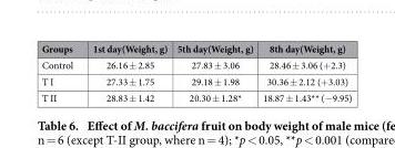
<table><thead><tr><td>Groups</td><td>1st day(Weight, g)</td><td>5th day(Weight, g)</td><td>8th day(Weight, g)</td></tr></thead><tbody><tr><td>Control</td><td>26.16 ± 2.85</td><td>27.83 ± 3.06</td><td>28.46 ± 3.06 (+ 2.3)</td></tr><tr><td>T I</td><td>27.33 ± 1.75</td><td>29.18 ± 1.98</td><td>30.36 ± 2.12 (+ 3.03)</td></tr><tr><td>T II</td><td>28.83 ± 1.42</td><td>20.30 ± 1.28*</td><td>18.87 ± 1.43** (− 9.95)</td></tr></tbody></table>